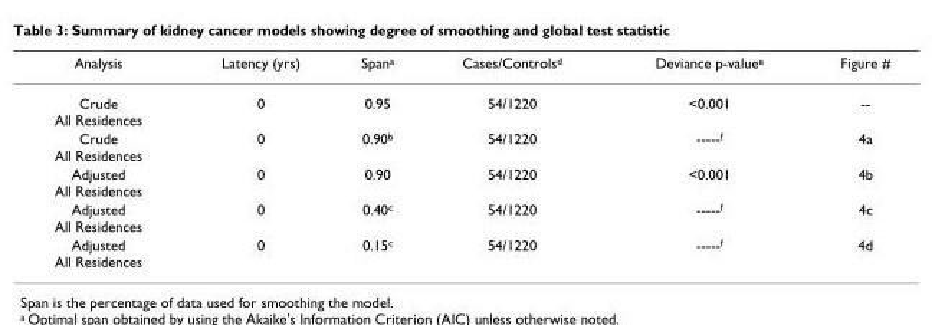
<table><thead><tr><td>Analysis</td><td>Latency (yrs)</td><td>Span<sup>a</sup></td><td>Cases/Controls<sup>d</sup></td><td>Deviance p-value<sup>e</sup></td><td>Figure #</td></tr></thead><tbody><tr><td>Crude All Residences</td><td>0</td><td>0.95</td><td>54/1220</td><td>&lt;0.001</td><td>--</td></tr><tr><td>Crude All Residences</td><td>0</td><td>0.90<sup>b</sup></td><td>54/1220</td><td>-----<sup>f</sup></td><td>4a</td></tr><tr><td>Adjusted All Residences</td><td>0</td><td>0.90</td><td>54/1220</td><td>&lt;0.001</td><td>4b</td></tr><tr><td>Adjusted All Residences</td><td>0</td><td>0.40<sup>c</sup></td><td>54/1220</td><td>-----<sup>f</sup></td><td>4c</td></tr><tr><td>Adjusted All Residences</td><td>0</td><td>0.15<sup>c</sup></td><td>54/1220</td><td>-----<sup>f</sup></td><td>4d</td></tr></tbody></table>